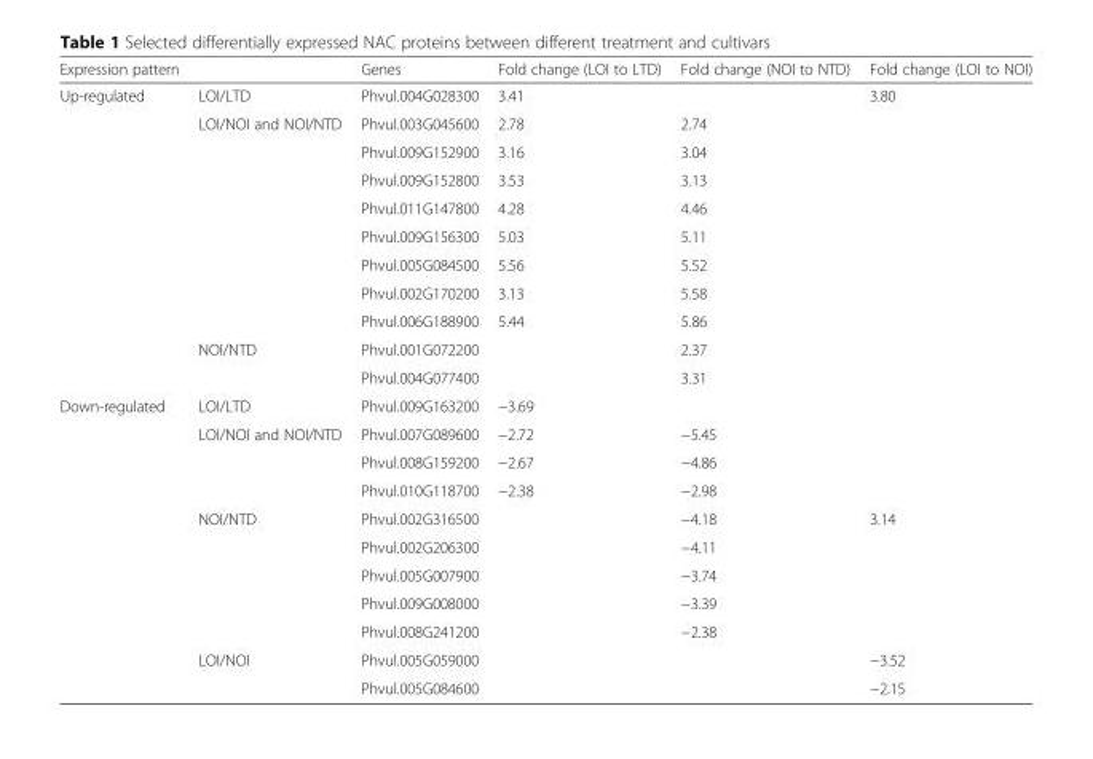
<table><thead><tr><td>Expression pattern</td><td></td><td>Genes</td><td>Fold change (LOI to LTD)</td><td>Fold change (NOI to NTD)</td><td>Fold change (LOI to NOI)</td></tr></thead><tbody><tr><td rowspan="11">Up-regulated</td><td>LOI/LTD</td><td>Phvul.004G028300</td><td>3.41</td><td></td><td>3.80</td></tr><tr><td rowspan="8">LOI/NOI and NOI/NTD</td><td>Phvul.003G045600</td><td>2.78</td><td>2.74</td><td></td></tr><tr><td>Phvul.009G152900</td><td>3.16</td><td>3.04</td><td></td></tr><tr><td>Phvul.009G152800</td><td>3.53</td><td>3.13</td><td></td></tr><tr><td>Phvul.011G147800</td><td>4.28</td><td>4.46</td><td></td></tr><tr><td>Phvul.009G156300</td><td>5.03</td><td>5.11</td><td></td></tr><tr><td>Phvul.005G084500</td><td>5.56</td><td>5.52</td><td></td></tr><tr><td>Phvul.002G170200</td><td>3.13</td><td>5.58</td><td></td></tr><tr><td>Phvul.006G188900</td><td>5.44</td><td>5.86</td><td></td></tr><tr><td rowspan="2">NOI/NTD</td><td>Phvul.001G072200</td><td></td><td>2.37</td><td></td></tr><tr><td>Phvul.004G077400</td><td></td><td>3.31</td><td></td></tr><tr><td rowspan="11">Down-regulated</td><td>LOI/LTD</td><td>Phvul.009G163200</td><td>−3.69</td><td></td><td></td></tr><tr><td rowspan="3">LOI/NOI and NOI/NTD</td><td>Phvul.007G089600</td><td>−2.72</td><td>−5.45</td><td></td></tr><tr><td>Phvul.008G159200</td><td>−2.67</td><td>−4.86</td><td></td></tr><tr><td>Phvul.010G118700</td><td>−2.38</td><td>−2.98</td><td></td></tr><tr><td rowspan="5">NOI/NTD</td><td>Phvul.002G316500</td><td></td><td>−4.18</td><td>3.14</td></tr><tr><td>Phvul.002G206300</td><td></td><td>−4.11</td><td></td></tr><tr><td>Phvul.005G007900</td><td></td><td>−3.74</td><td></td></tr><tr><td>Phvul.009G008000</td><td></td><td>−3.39</td><td></td></tr><tr><td>Phvul.008G241200</td><td></td><td>−2.38</td><td></td></tr><tr><td rowspan="2">LOI/NOI</td><td>Phvul.005G059000</td><td></td><td></td><td>−3.52</td></tr><tr><td>Phvul.005G084600</td><td></td><td></td><td>−2.15</td></tr></tbody></table>